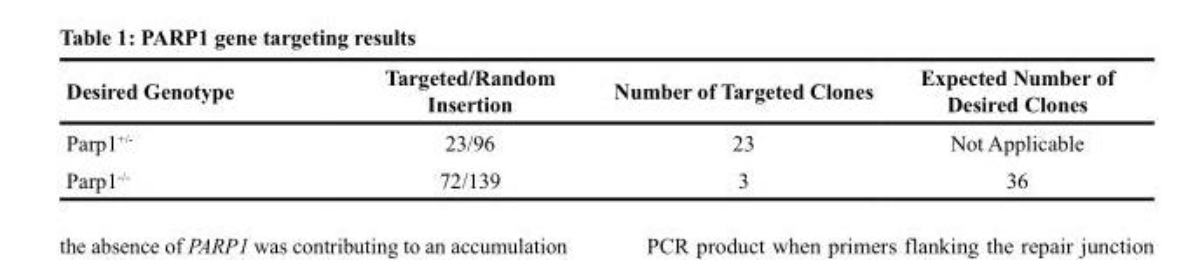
<table><thead><tr><td>Desired Genotype</td><td>Targeted/Random Insertion</td><td>Number of Targeted Clones</td><td>Expected Number of Desired Clones</td></tr></thead><tbody><tr><td>Parp1<sup>+/-</sup></td><td>23/96</td><td>23</td><td>Not Applicable</td></tr><tr><td>Parp1<sup>-/-</sup></td><td>72/139</td><td>3</td><td>36</td></tr></tbody></table>